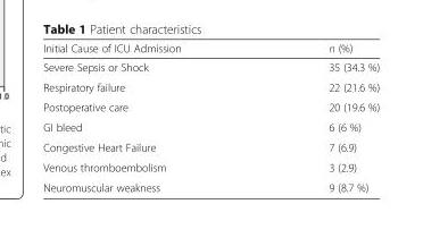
<table><thead><tr><td>Initial Cause of ICU Admission</td><td>n (%)</td></tr></thead><tbody><tr><td>Severe Sepsis or Shock</td><td>35 (34.3 %)</td></tr><tr><td>Respiratory failure</td><td>22 (21.6 %)</td></tr><tr><td>Postoperative care</td><td>20 (19.6 %)</td></tr><tr><td>GI bleed</td><td>6 (6 %)</td></tr><tr><td>Congestive Heart Failure</td><td>7 (6.9)</td></tr><tr><td>Venous thromboembolism</td><td>3 (2.9)</td></tr><tr><td>Neuromuscular weakness</td><td>9 (8.7 %)</td></tr></tbody></table>